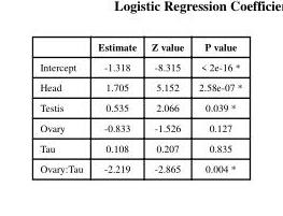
<table><thead><tr><td></td><td>Estimate</td><td>Z value</td><td>P value</td></tr></thead><tbody><tr><td>Intercept</td><td>-1.318</td><td>-8.315</td><td>&lt; 2e-16 *</td></tr><tr><td>Head</td><td>1.705</td><td>5.152</td><td>2.58e-07 *</td></tr><tr><td>Testis</td><td>0.535</td><td>2.066</td><td>0.039 *</td></tr><tr><td>Ovary</td><td>-0.833</td><td>-1.526</td><td>0.127</td></tr><tr><td>Tau</td><td>0.108</td><td>0.207</td><td>0.835</td></tr><tr><td>Ovary:Tau</td><td>-2.219</td><td>-2.865</td><td>0.004 *</td></tr></tbody></table>